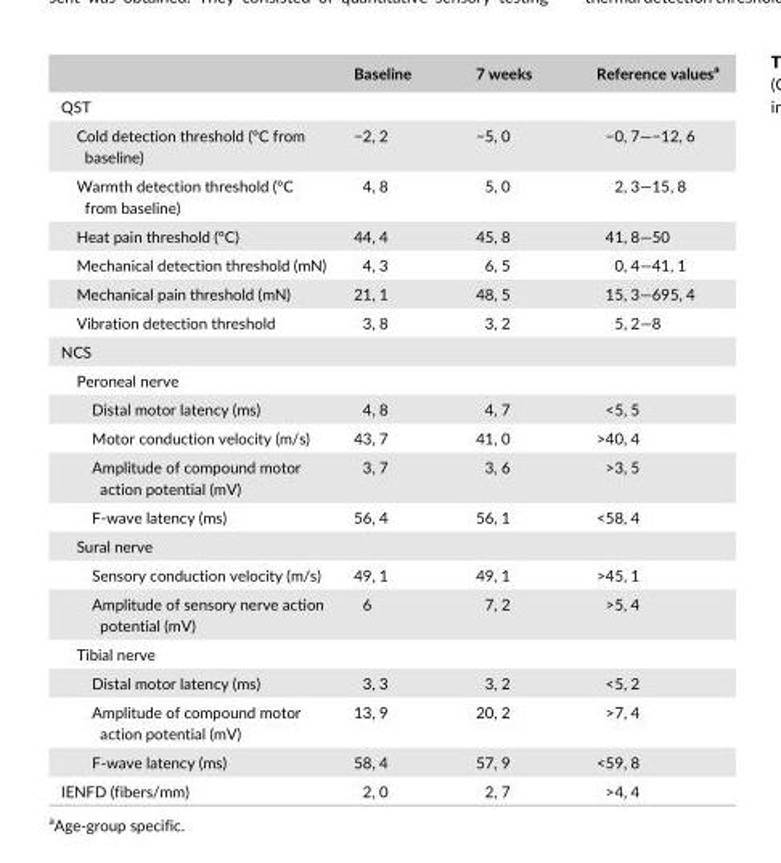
<table><thead><tr><td></td><td>Baseline</td><td>7 weeks</td><td>Reference values<sup>a</sup></td></tr></thead><tbody><tr><td colspan="4">QST</td></tr><tr><td>Cold detection threshold (°C from baseline)</td><td>−2, 2</td><td>−5, 0</td><td>−0, 7—−12, 6</td></tr><tr><td>Warmth detection threshold (°C from baseline)</td><td>4, 8</td><td>5, 0</td><td>2, 3—15, 8</td></tr><tr><td>Heat pain threshold (°C)</td><td>44, 4</td><td>45, 8</td><td>41, 8—50</td></tr><tr><td>Mechanical detection threshold (mN)</td><td>4, 3</td><td>6, 5</td><td>0, 4—41, 1</td></tr><tr><td>Mechanical pain threshold (mN)</td><td>21, 1</td><td>48, 5</td><td>15, 3—695, 4</td></tr><tr><td>Vibration detection threshold</td><td>3, 8</td><td>3, 2</td><td>5, 2—8</td></tr><tr><td colspan="4">NCS</td></tr><tr><td colspan="4">Peroneal nerve</td></tr><tr><td>Distal motor latency (ms)</td><td>4, 8</td><td>4, 7</td><td>&lt;5, 5</td></tr><tr><td>Motor conduction velocity (m/s)</td><td>43, 7</td><td>41, 0</td><td>&gt;40, 4</td></tr><tr><td>Amplitude of compound motor action potential (mV)</td><td>3, 7</td><td>3, 6</td><td>&gt;3, 5</td></tr><tr><td>F- wave latency (ms)</td><td>56, 4</td><td>56, 1</td><td>&lt;58, 4</td></tr><tr><td colspan="4">Sural nerve</td></tr><tr><td>Sensory conduction velocity (m/s)</td><td>49, 1</td><td>49, 1</td><td>&gt;45, 1</td></tr><tr><td>Amplitude of sensory nerve action potential (mV)</td><td>6</td><td>7, 2</td><td>&gt;5, 4</td></tr><tr><td colspan="4">Tibial nerve</td></tr><tr><td>Distal motor latency (ms)</td><td>3, 3</td><td>3, 2</td><td>&lt;5, 2</td></tr><tr><td>Amplitude of compound motor action potential (mV)</td><td>13, 9</td><td>20, 2</td><td>&gt;7, 4</td></tr><tr><td>F- wave latency (ms)</td><td>58, 4</td><td>57, 9</td><td>&lt;59, 8</td></tr><tr><td>IENFD (fibers/mm)</td><td>2, 0</td><td>2, 7</td><td>&gt;4, 4</td></tr></tbody></table>